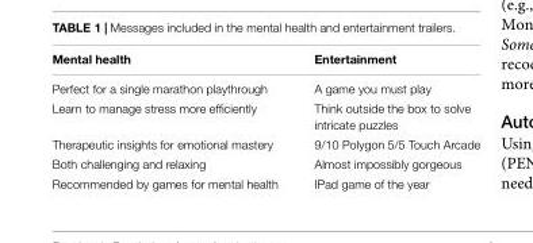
<table><thead><tr><td>Mental health</td><td>Entertainment</td></tr></thead><tbody><tr><td>Perfect for a single marathon playthrough</td><td>A game you must play</td></tr><tr><td>Learn to manage stress more efficiently</td><td>Think outside the box to solve intricate puzzles</td></tr><tr><td>Therapeutic insights for emotional mastery</td><td>9/10 Polygon 5/5 Touch Arcade</td></tr><tr><td>Both challenging and relaxing</td><td>Almost impossibly gorgeous</td></tr><tr><td>Recommended by games for mental health</td><td>IPad game of the year</td></tr></tbody></table>